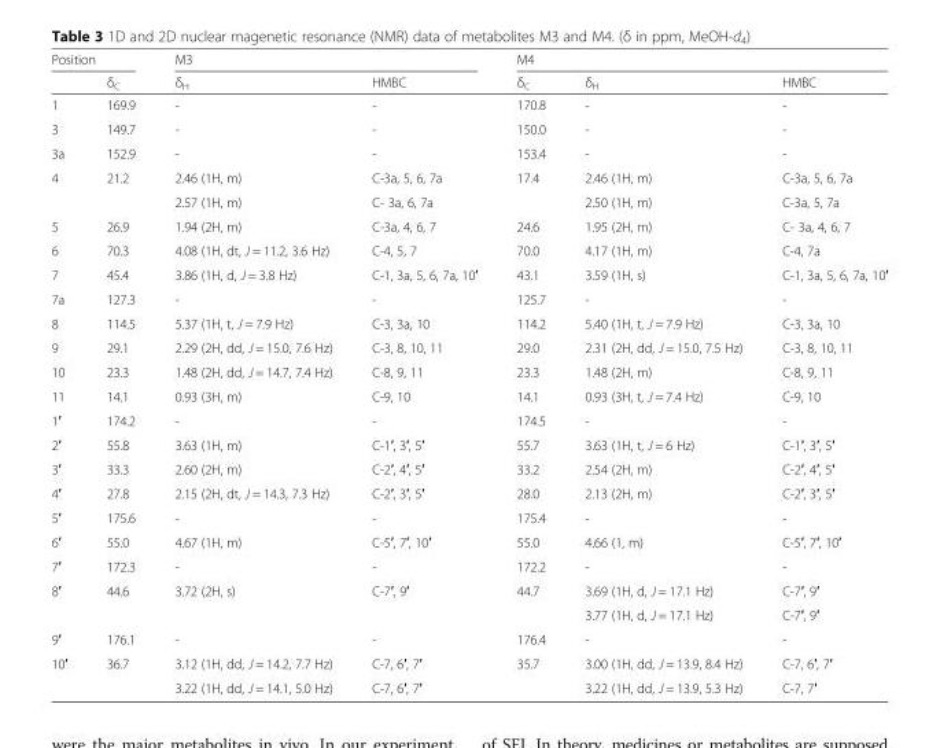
<table><thead><tr><td colspan="2">Position</td><td colspan="2">M3</td><td colspan="3">M4</td></tr><tr><td></td><td>δ<sub>C</sub></td><td>δ<sub>H</sub></td><td>HMBC</td><td>δ<sub>C</sub></td><td>δ<sub>H</sub></td><td>HMBC</td></tr></thead><tbody><tr><td>1</td><td>169.9</td><td>-</td><td>-</td><td>170.8</td><td>-</td><td>-</td></tr><tr><td>3</td><td>149.7</td><td>-</td><td>-</td><td>150.0</td><td>-</td><td>-</td></tr><tr><td>3a</td><td>152.9</td><td>-</td><td>-</td><td>153.4</td><td>-</td><td>-</td></tr><tr><td>4</td><td>21.2</td><td>2.46 (1H, m)</td><td>C-3a, 5, 6, 7a</td><td>17.4</td><td>2.46 (1H, m)</td><td>C-3a, 5, 6, 7a</td></tr><tr><td colspan="2"></td><td>2.57 (1H, m)</td><td colspan="2">C- 3a, 6, 7a</td><td>2.50 (1H, m)</td><td>C-3a, 5, 7a</td></tr><tr><td>5</td><td>26.9</td><td>1.94 (2H, m)</td><td>C-3a, 4, 6, 7</td><td>24.6</td><td>1.95 (2H, m)</td><td>C- 3a, 4, 6, 7</td></tr><tr><td>6</td><td>70.3</td><td>4.08 (1H, dt, J = 11.2, 3.6 Hz)</td><td>C-4, 5, 7</td><td>70.0</td><td>4.17 (1H, m)</td><td>C-4, 7a</td></tr><tr><td>7</td><td>45.4</td><td>3.86 (1H, d, J = 3.8 Hz)</td><td>C-1, 3a, 5, 6, 7a, 10′</td><td>43.1</td><td>3.59 (1H, s)</td><td>C-1, 3a, 5, 6, 7a, 10′</td></tr><tr><td>7a</td><td>127.3</td><td>-</td><td>-</td><td>125.7</td><td>-</td><td>-</td></tr><tr><td>8</td><td>114.5</td><td>5.37 (1H, t, J = 7.9 Hz)</td><td>C-3, 3a, 10</td><td>114.2</td><td>5.40 (1H, t, J = 7.9 Hz)</td><td>C-3, 3a, 10</td></tr><tr><td>9</td><td>29.1</td><td>2.29 (2H, dd, J = 15.0, 7.6 Hz)</td><td>C-3, 8, 10, 11</td><td>29.0</td><td>2.31 (2H, dd, J = 15.0, 7.5 Hz)</td><td>C-3, 8, 10, 11</td></tr><tr><td>10</td><td>23.3</td><td>1.48 (2H, dd, J = 14.7, 7.4 Hz)</td><td>C-8, 9, 11</td><td>23.3</td><td>1.48 (2H, m)</td><td>C-8, 9, 11</td></tr><tr><td>11</td><td>14.1</td><td>0.93 (3H, m)</td><td>C-9, 10</td><td>14.1</td><td>0.93 (3H, t, J = 7.4 Hz)</td><td>C-9, 10</td></tr><tr><td>1′</td><td>174.2</td><td>-</td><td>-</td><td>174.5</td><td>-</td><td>-</td></tr><tr><td>2′</td><td>55.8</td><td>3.63 (1H, m)</td><td>C-1′, 3′, 5′</td><td>55.7</td><td>3.63 (1H, t, J = 6 Hz)</td><td>C-1′, 3′, 5′</td></tr><tr><td>3′</td><td>33.3</td><td>2.60 (2H, m)</td><td>C-2′, 4′, 5′</td><td>33.2</td><td>2.54 (2H, m)</td><td>C-2′, 4′, 5′</td></tr><tr><td>4′</td><td>27.8</td><td>2.15 (2H, dt, J = 14.3, 7.3 Hz)</td><td>C-2′, 3′, 5′</td><td>28.0</td><td>2.13 (2H, m)</td><td>C-2′, 3′, 5′</td></tr><tr><td>5′</td><td>175.6</td><td>-</td><td>-</td><td>175.4</td><td>-</td><td>-</td></tr><tr><td>6′</td><td>55.0</td><td>4.67 (1H, m)</td><td>C-5′, 7′, 10′</td><td>55.0</td><td>4.66 (1, m)</td><td>C-5′, 7′, 10′</td></tr><tr><td>7′</td><td>172.3</td><td>-</td><td>-</td><td>172.2</td><td>-</td><td>-</td></tr><tr><td>8′</td><td>44.6</td><td>3.72 (2H, s)</td><td>C-7′, 9′</td><td>44.7</td><td>3.69 (1H, d, J = 17.1 Hz)</td><td>C-7′, 9′</td></tr><tr><td colspan="5"></td><td>3.77 (1H, d, J = 17.1 Hz)</td><td>C-7′, 9′</td></tr><tr><td>9′</td><td>176.1</td><td>-</td><td>-</td><td>176.4</td><td>-</td><td>-</td></tr><tr><td>10′</td><td>36.7</td><td>3.12 (1H, dd, J = 14.2, 7.7 Hz)</td><td>C-7, 6′, 7′</td><td>35.7</td><td>3.00 (1H, dd, J = 13.9, 8.4 Hz)</td><td>C-7, 6′, 7′</td></tr><tr><td colspan="2"></td><td>3.22 (1H, dd, J = 14.1, 5.0 Hz)</td><td colspan="2">C-7, 6′, 7′</td><td>3.22 (1H, dd, J = 13.9, 5.3 Hz)</td><td>C-7, 7′</td></tr></tbody></table>